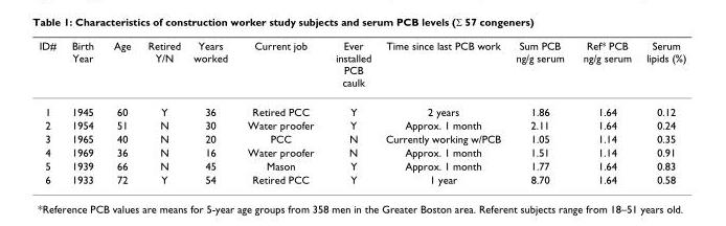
<table><thead><tr><td>ID#</td><td>Birth Year</td><td>Age</td><td>Retired Y/N</td><td>Years worked</td><td>Current job</td><td>Ever installed PCB caulk</td><td>Time since last PCB work</td><td>Sum PCB ng/g serum</td><td>Ref* PCB ng/g serum</td><td>Serum lipids (%)</td></tr></thead><tbody><tr><td>1</td><td>1945</td><td>60</td><td>Y</td><td>36</td><td>Retired PCC</td><td>Y</td><td>2 years</td><td>1.86</td><td>1.64</td><td>0.12</td></tr><tr><td>2</td><td>1954</td><td>51</td><td>N</td><td>30</td><td>Water proofer</td><td>Y</td><td>Approx. 1 month</td><td>2.11</td><td>1.64</td><td>0.24</td></tr><tr><td>3</td><td>1965</td><td>40</td><td>N</td><td>20</td><td>PCC</td><td>N</td><td>Currently working w/PCB</td><td>1.05</td><td>1.14</td><td>0.35</td></tr><tr><td>4</td><td>1969</td><td>36</td><td>N</td><td>16</td><td>Water proofer</td><td>N</td><td>Approx. 1 month</td><td>1.51</td><td>1.14</td><td>0.91</td></tr><tr><td>5</td><td>1939</td><td>66</td><td>N</td><td>45</td><td>Mason</td><td>Y</td><td>Approx. 1 month</td><td>1.77</td><td>1.64</td><td>0.83</td></tr><tr><td>6</td><td>1933</td><td>72</td><td>Y</td><td>54</td><td>Retired PCC</td><td>Y</td><td>1 year</td><td>8.70</td><td>1.64</td><td>0.58</td></tr></tbody></table>